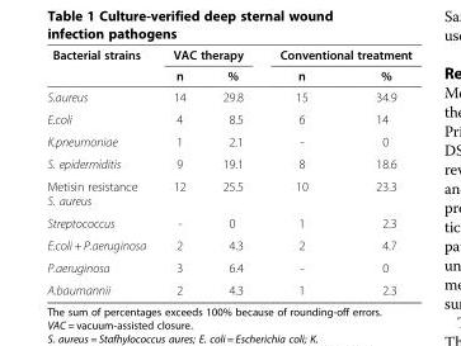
<table><thead><tr><td rowspan="2">Bacterial strains</td><td colspan="2">VAC therapy</td><td colspan="2">Conventional treatment</td></tr><tr><td>n</td><td>%</td><td>n</td><td>%</td></tr></thead><tbody><tr><td>S.aureus</td><td>14</td><td>29.8</td><td>15</td><td>34.9</td></tr><tr><td>E.coli</td><td>4</td><td>8.5</td><td>6</td><td>14</td></tr><tr><td>K.pneumoniae</td><td>1</td><td>2.1</td><td>-</td><td>0</td></tr><tr><td>S. epidermiditis</td><td>9</td><td>19.1</td><td>8</td><td>18.6</td></tr><tr><td>Metisin resistance S. aureus</td><td>12</td><td>25.5</td><td>10</td><td>23.3</td></tr><tr><td>Streptococcus</td><td>-</td><td>0</td><td>1</td><td>2.3</td></tr><tr><td>E.coli + P.aeruginosa</td><td>2</td><td>4.3</td><td>2</td><td>4.7</td></tr><tr><td>P.aeruginosa</td><td>3</td><td>6.4</td><td>-</td><td>0</td></tr><tr><td>A.baumannii</td><td>2</td><td>4.3</td><td>1</td><td>2.3</td></tr></tbody></table>